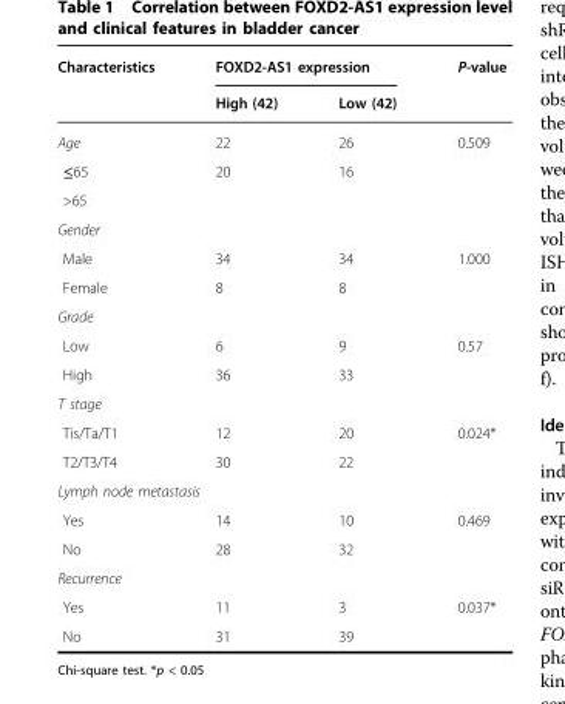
<table><thead><tr><td rowspan="2">Characteristics</td><td colspan="2">FOXD2-AS1 expression</td><td rowspan="2">P-value</td></tr><tr><td>High (42)</td><td>Low (42)</td></tr></thead><tbody><tr><td>Age</td><td>22</td><td>26</td><td rowspan="2">0.509</td></tr><tr><td>≤65</td><td>20</td><td>16</td></tr><tr><td colspan="4">&gt;65</td></tr><tr><td colspan="4">Gender</td></tr><tr><td>Male</td><td>34</td><td>34</td><td rowspan="2">1.000</td></tr><tr><td>Female</td><td>8</td><td>8</td></tr><tr><td colspan="4">Grade</td></tr><tr><td>Low</td><td>6</td><td>9</td><td rowspan="2">0.57</td></tr><tr><td>High</td><td>36</td><td>33</td></tr><tr><td colspan="4">T stage</td></tr><tr><td>Tis/Ta/T1</td><td>12</td><td>20</td><td rowspan="2">0.024*</td></tr><tr><td>T2/T3/T4</td><td>30</td><td>22</td></tr><tr><td colspan="4">Lymph node metastasis</td></tr><tr><td>Yes</td><td>14</td><td>10</td><td rowspan="2">0.469</td></tr><tr><td>No</td><td>28</td><td>32</td></tr><tr><td colspan="4">Recurrence</td></tr><tr><td>Yes</td><td>11</td><td>3</td><td rowspan="2">0.037*</td></tr><tr><td>No</td><td>31</td><td>39</td></tr></tbody></table>